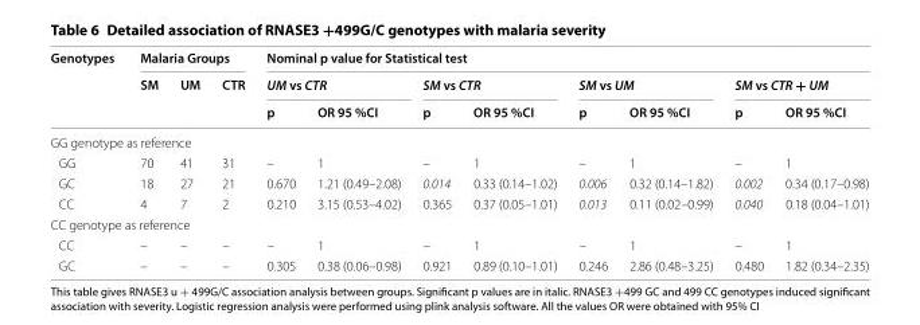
<table><thead><tr><td rowspan="3">Genotypes</td><td colspan="3">Malaria Groups</td><td colspan="8">Nominal p value for Statistical test</td></tr><tr><td rowspan="2">SM</td><td rowspan="2">UM</td><td rowspan="2">CTR</td><td colspan="2">UM vs CTR</td><td colspan="2">SM vs CTR</td><td colspan="2">SM vs UM</td><td colspan="2">SM vs CTR + UM</td></tr><tr><td>p</td><td>OR 95 %CI</td><td>p</td><td>OR 95 %CI</td><td>p</td><td>OR 95 %CI</td><td>p</td><td>OR 95 %CI</td></tr></thead><tbody><tr><td colspan="12">GG genotype as reference</td></tr><tr><td>GG</td><td>70</td><td>41</td><td>31</td><td>–</td><td>1</td><td>–</td><td>1</td><td>–</td><td>1</td><td>–</td><td>1</td></tr><tr><td>GC</td><td>18</td><td>27</td><td>21</td><td>0.670</td><td>1.21 (0.49–2.08)</td><td>0.014</td><td>0.33 (0.14–1.02)</td><td>0.006</td><td>0.32 (0.14–1.82)</td><td>0.002</td><td>0.34 (0.17–0.98)</td></tr><tr><td>CC</td><td>4</td><td>7</td><td>2</td><td>0.210</td><td>3.15 (0.53–4.02)</td><td>0.365</td><td>0.37 (0.05–1.01)</td><td>0.013</td><td>0.11 (0.02–0.99)</td><td>0.040</td><td>0.18 (0.04–1.01)</td></tr><tr><td colspan="12">CC genotype as reference</td></tr><tr><td>CC</td><td>–</td><td>–</td><td>–</td><td>–</td><td>1</td><td>–</td><td>1</td><td>–</td><td>1</td><td>–</td><td>1</td></tr><tr><td>GC</td><td>–</td><td>–</td><td>–</td><td>0.305</td><td>0.38 (0.06–0.98)</td><td>0.921</td><td>0.89 (0.10–1.01)</td><td>0.246</td><td>2.86 (0.48–3.25)</td><td>0.480</td><td>1.82 (0.34–2.35)</td></tr></tbody></table>